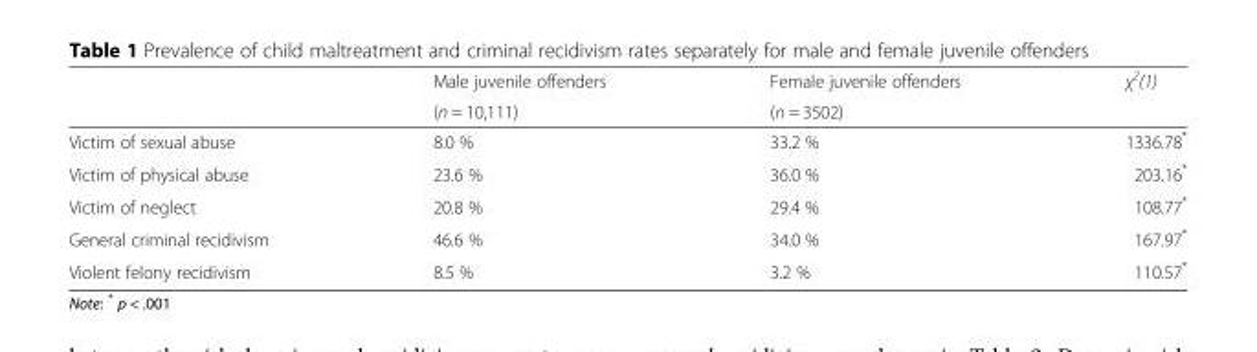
<table><thead><tr><td rowspan="2"></td><td rowspan="2">Male juvenile offenders (n = 10,111)</td><td rowspan="2">Female juvenile offenders (n = 3502)</td><td rowspan="2">χ<sup>2</sup>(1)</td></tr><tr></tr></thead><tbody><tr><td>Victim of sexual abuse</td><td>8.0 %</td><td>33.2 %</td><td>1336.78*</td></tr><tr><td>Victim of physical abuse</td><td>23.6 %</td><td>36.0 %</td><td>203.16*</td></tr><tr><td>Victim of neglect</td><td>20.8 %</td><td>29.4 %</td><td>108.77*</td></tr><tr><td>General criminal recidivism</td><td>46.6 %</td><td>34.0 %</td><td>167.97*</td></tr><tr><td>Violent felony recidivism</td><td>8.5 %</td><td>3.2 %</td><td>110.57*</td></tr></tbody></table>